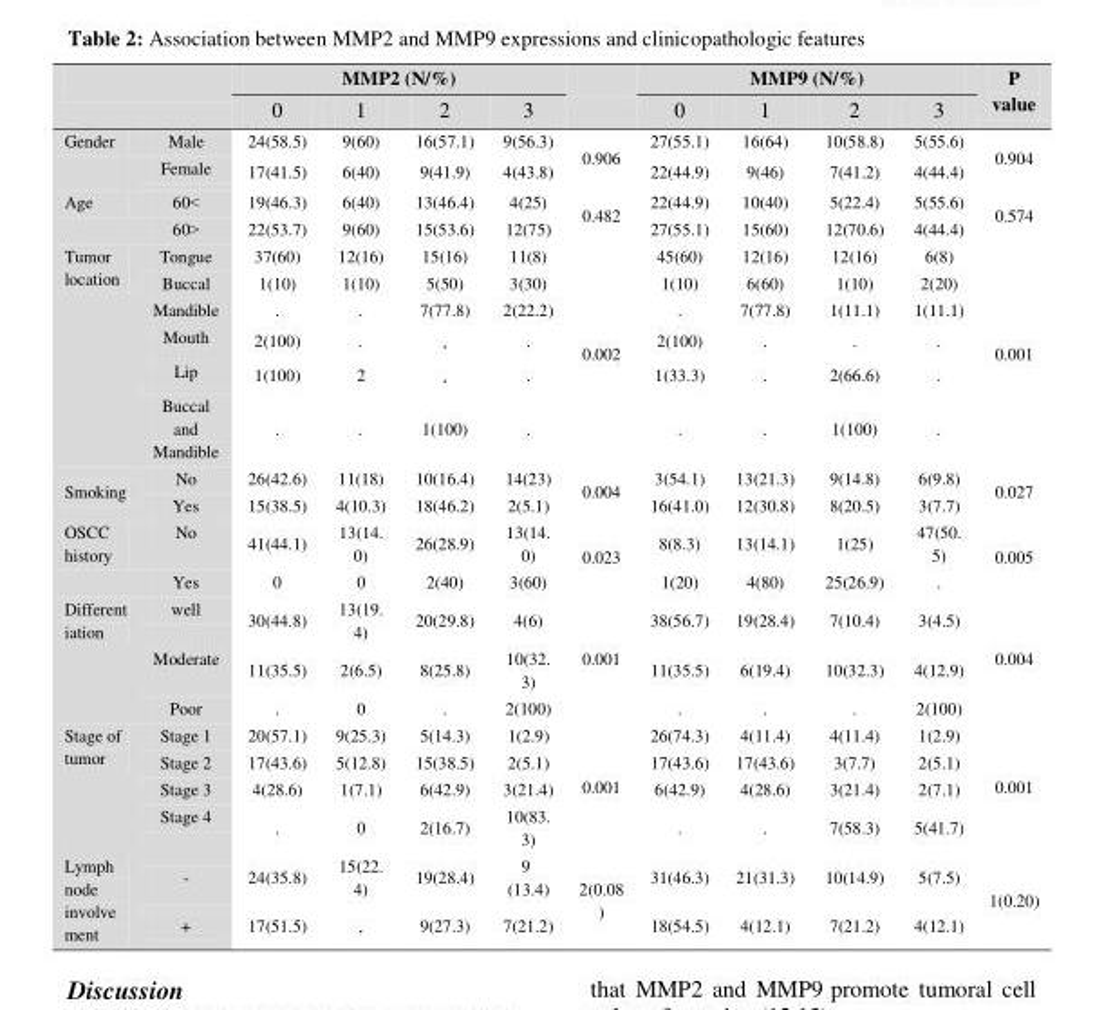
<table><thead><tr><td rowspan="2"></td><td rowspan="2"></td><td colspan="4">MMP2 (N/%)</td><td rowspan="2"></td><td colspan="4">MMP9 (N/%)</td><td rowspan="2">P value</td></tr><tr><td>0</td><td>1</td><td>2</td><td>3</td><td>0</td><td>1</td><td>2</td><td>3</td></tr></thead><tbody><tr><td rowspan="2">Gender</td><td>Male</td><td>24(58.5)</td><td>9(60)</td><td>16(57.1)</td><td>9(56.3)</td><td rowspan="2">0.906</td><td>27(55.1)</td><td>16(64)</td><td>10(58.8)</td><td>5(55.6)</td><td rowspan="2">0.904</td></tr><tr><td>Female</td><td>17(41.5)</td><td>6(40)</td><td>9(41.9)</td><td>4(43.8)</td><td>22(44.9)</td><td>9(46)</td><td>7(41.2)</td><td>4(44.4)</td></tr><tr><td rowspan="2">Age</td><td>60&gt;</td><td>19(46.3)</td><td>6(40)</td><td>13(46.4)</td><td>4(25)</td><td rowspan="2">0.482</td><td>22(44.9)</td><td>10(40)</td><td>5(22.4)</td><td>5(55.6)</td><td rowspan="2">0.574</td></tr><tr><td>60&lt;</td><td>22(53.7)</td><td>9(60)</td><td>15(53.6)</td><td>12(75)</td><td>27(55.1)</td><td>15(60)</td><td>12(70.6)</td><td>4(44.4)</td></tr><tr><td rowspan="6">Tumor location</td><td>Tongue</td><td>37(60)</td><td>12(16)</td><td>15(16)</td><td>11(8)</td><td rowspan="6">0.002</td><td>45(60)</td><td>12(16)</td><td>12(16)</td><td>6(8)</td><td rowspan="6">0.001</td></tr><tr><td>Buccal</td><td>1(10)</td><td>1(10)</td><td>5(50)</td><td>3(30)</td><td>1(10)</td><td>6(60)</td><td>1(10)</td><td>2(20)</td></tr><tr><td>Mandible</td><td>.</td><td>.</td><td>7(77.8)</td><td>2(22.2)</td><td>.</td><td>7(77.8)</td><td>1(11.1)</td><td>1(11.1)</td></tr><tr><td>Mouth</td><td>2(100)</td><td>.</td><td>.</td><td>.</td><td>2(100)</td><td>.</td><td>.</td><td>.</td></tr><tr><td>Lip</td><td>1(100)</td><td>2</td><td>.</td><td>.</td><td>1(33.3)</td><td>.</td><td>2(66.6)</td><td>.</td></tr><tr><td>Buccal and Mandible</td><td>.</td><td>.</td><td>1(100)</td><td>.</td><td>.</td><td>.</td><td>1(100)</td><td>.</td></tr><tr><td rowspan="2">Smoking</td><td>No</td><td>26(42.6)</td><td>11(18)</td><td>10(16.4)</td><td>14(23)</td><td rowspan="2">0.004</td><td>3(54.1)</td><td>13(21.3)</td><td>9(14.8)</td><td>6(9.8)</td><td rowspan="2">0.027</td></tr><tr><td>Yes</td><td>15(38.5)</td><td>4(10.3)</td><td>18(46.2)</td><td>2(5.1)</td><td>16(41.0)</td><td>12(30.8)</td><td>8(20.5)</td><td>3(7.7)</td></tr><tr><td rowspan="2">OSCC history</td><td>No</td><td>41(44.1)</td><td>13(14. 0)</td><td>26(28.9)</td><td>13(14. 0)</td><td rowspan="2">0.023</td><td>8(8.3)</td><td>13(14.1)</td><td>1(25)</td><td>47(50. 5)</td><td rowspan="2">0.005</td></tr><tr><td>Yes</td><td>0</td><td>0</td><td>2(40)</td><td>3(60)</td><td>1(20)</td><td>4(80)</td><td>25(26.9)</td><td>.</td></tr><tr><td rowspan="3">Different iation</td><td>well</td><td>30(44.8)</td><td>13(19. 4)</td><td>20(29.8)</td><td>4(6)</td><td rowspan="3">0.001</td><td>38(56.7)</td><td>19(28.4)</td><td>7(10.4)</td><td>3(4.5)</td><td rowspan="3">0.004</td></tr><tr><td>Moderate</td><td>11(35.5)</td><td>2(6.5)</td><td>8(25.8)</td><td>10(32. 3)</td><td>11(35.5)</td><td>6(19.4)</td><td>10(32.3)</td><td>4(12.9)</td></tr><tr><td>Poor</td><td>.</td><td>0</td><td>.</td><td>2(100)</td><td>.</td><td>.</td><td>.</td><td>2(100)</td></tr><tr><td rowspan="4">Stage of tumor</td><td>Stage 1</td><td>20(57.1)</td><td>9(25.3)</td><td>5(14.3)</td><td>1(2.9)</td><td rowspan="4">0.001</td><td>26(74.3)</td><td>4(11.4)</td><td>4(11.4)</td><td>1(2.9)</td><td rowspan="4">0.001</td></tr><tr><td>Stage 2</td><td>17(43.6)</td><td>5(12.8)</td><td>15(38.5)</td><td>2(5.1)</td><td>17(43.6)</td><td>17(43.6)</td><td>3(7.7)</td><td>2(5.1)</td></tr><tr><td>Stage 3</td><td>4(28.6)</td><td>1(7.1)</td><td>6(42.9)</td><td>3(21.4)</td><td>6(42.9)</td><td>4(28.6)</td><td>3(21.4)</td><td>2(7.1)</td></tr><tr><td>Stage 4</td><td>.</td><td>0</td><td>2(16.7)</td><td>10(83. 3)</td><td>.</td><td>.</td><td>7(58.3)</td><td>5(41.7)</td></tr><tr><td rowspan="2">Lymph node involve ment</td><td>-</td><td>24(35.8)</td><td>15(22. 4)</td><td>19(28.4)</td><td>9 (13.4)</td><td rowspan="2">2(0.08 )</td><td>31(46.3)</td><td>21(31.3)</td><td>10(14.9)</td><td>5(7.5)</td><td rowspan="2">1(0.20)</td></tr><tr><td>+</td><td>17(51.5)</td><td>.</td><td>9(27.3)</td><td>7(21.2)</td><td>18(54.5)</td><td>4(12.1)</td><td>7(21.2)</td><td>4(12.1)</td></tr></tbody></table>